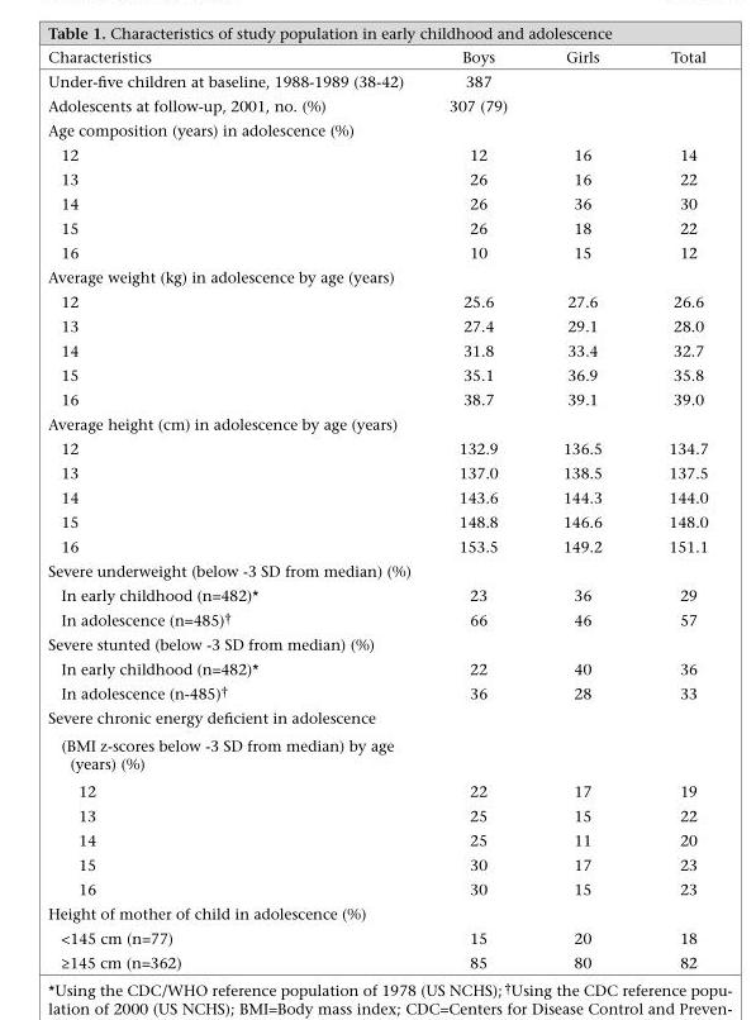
<table><thead><tr><td>Characteristics</td><td>Boys</td><td>Girls</td><td>Total</td></tr></thead><tbody><tr><td>Under-five children at baseline, 1988-1989 (38-42)</td><td>387</td><td></td><td></td></tr><tr><td>Adolescents at follow-up, 2001, no. (%)</td><td>307 (79)</td><td></td><td></td></tr><tr><td colspan="4">Age composition (years) in adolescence (%)</td></tr><tr><td>12</td><td>12</td><td>16</td><td>14</td></tr><tr><td>13</td><td>26</td><td>16</td><td>22</td></tr><tr><td>14</td><td>26</td><td>36</td><td>30</td></tr><tr><td>15</td><td>26</td><td>18</td><td>22</td></tr><tr><td>16</td><td>10</td><td>15</td><td>12</td></tr><tr><td colspan="4">Average weight (kg) in adolescence by age (years)</td></tr><tr><td>12</td><td>25.6</td><td>27.6</td><td>26.6</td></tr><tr><td>13</td><td>27.4</td><td>29.1</td><td>28.0</td></tr><tr><td>14</td><td>31.8</td><td>33.4</td><td>32.7</td></tr><tr><td>15</td><td>35.1</td><td>36.9</td><td>35.8</td></tr><tr><td>16</td><td>38.7</td><td>39.1</td><td>39.0</td></tr><tr><td colspan="4">Average height (cm) in adolescence by age (years)</td></tr><tr><td>12</td><td>132.9</td><td>136.5</td><td>134.7</td></tr><tr><td>13</td><td>137.0</td><td>138.5</td><td>137.5</td></tr><tr><td>14</td><td>143.6</td><td>144.3</td><td>144.0</td></tr><tr><td>15</td><td>148.8</td><td>146.6</td><td>148.0</td></tr><tr><td>16</td><td>153.5</td><td>149.2</td><td>151.1</td></tr><tr><td colspan="4">Severe underweight (below -3 SD from median) (%)</td></tr><tr><td>In early childhood (n=482)*</td><td>23</td><td>36</td><td>29</td></tr><tr><td>In adolescence (n=485)<sup>†</sup></td><td>66</td><td>46</td><td>57</td></tr><tr><td colspan="4">Severe stunted (below -3 SD from median) (%)</td></tr><tr><td>In early childhood (n=482)*</td><td>22</td><td>40</td><td>36</td></tr><tr><td>In adolescence (n-485)<sup>†</sup></td><td>36</td><td>28</td><td>33</td></tr><tr><td colspan="4">Severe chronic energy deficient in adolescence</td></tr><tr><td colspan="4">(BMI z-scores below -3 SD from median) by age (years) (%)</td></tr><tr><td>12</td><td>22</td><td>17</td><td>19</td></tr><tr><td>13</td><td>25</td><td>15</td><td>22</td></tr><tr><td>14</td><td>25</td><td>11</td><td>20</td></tr><tr><td>15</td><td>30</td><td>17</td><td>23</td></tr><tr><td>16</td><td>30</td><td>15</td><td>23</td></tr><tr><td colspan="4">Height of mother of child in adolescence (%)</td></tr><tr><td>&lt;145 cm (n=77)</td><td>15</td><td>20</td><td>18</td></tr><tr><td>≥145 cm (n=362)</td><td>85</td><td>80</td><td>82</td></tr></tbody></table>